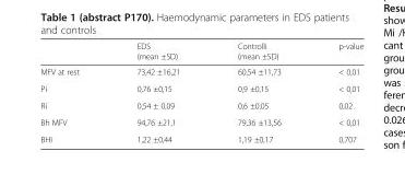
<table><thead><tr><td></td><td>EDS (mean ±SD)</td><td>Controlli (mean ±SD)</td><td>p-value</td></tr></thead><tbody><tr><td>MFV at rest</td><td>73,42 ±16,21</td><td>60,54 ±11,73</td><td>&lt; 0,01</td></tr><tr><td>Pi</td><td>0,76 ±0,15</td><td>0,9 ±0,15</td><td>&lt; 0,01</td></tr><tr><td>Ri</td><td>0,54 ± 0,09</td><td>0,6 ±0,05</td><td>0,02</td></tr><tr><td>Bh MFV</td><td>94,76 ±21,1</td><td>79,36 ±13,56</td><td>&lt; 0,01</td></tr><tr><td>BHI</td><td>1,22 ±0,44</td><td>1,19 ±0,17</td><td>0,707</td></tr></tbody></table>